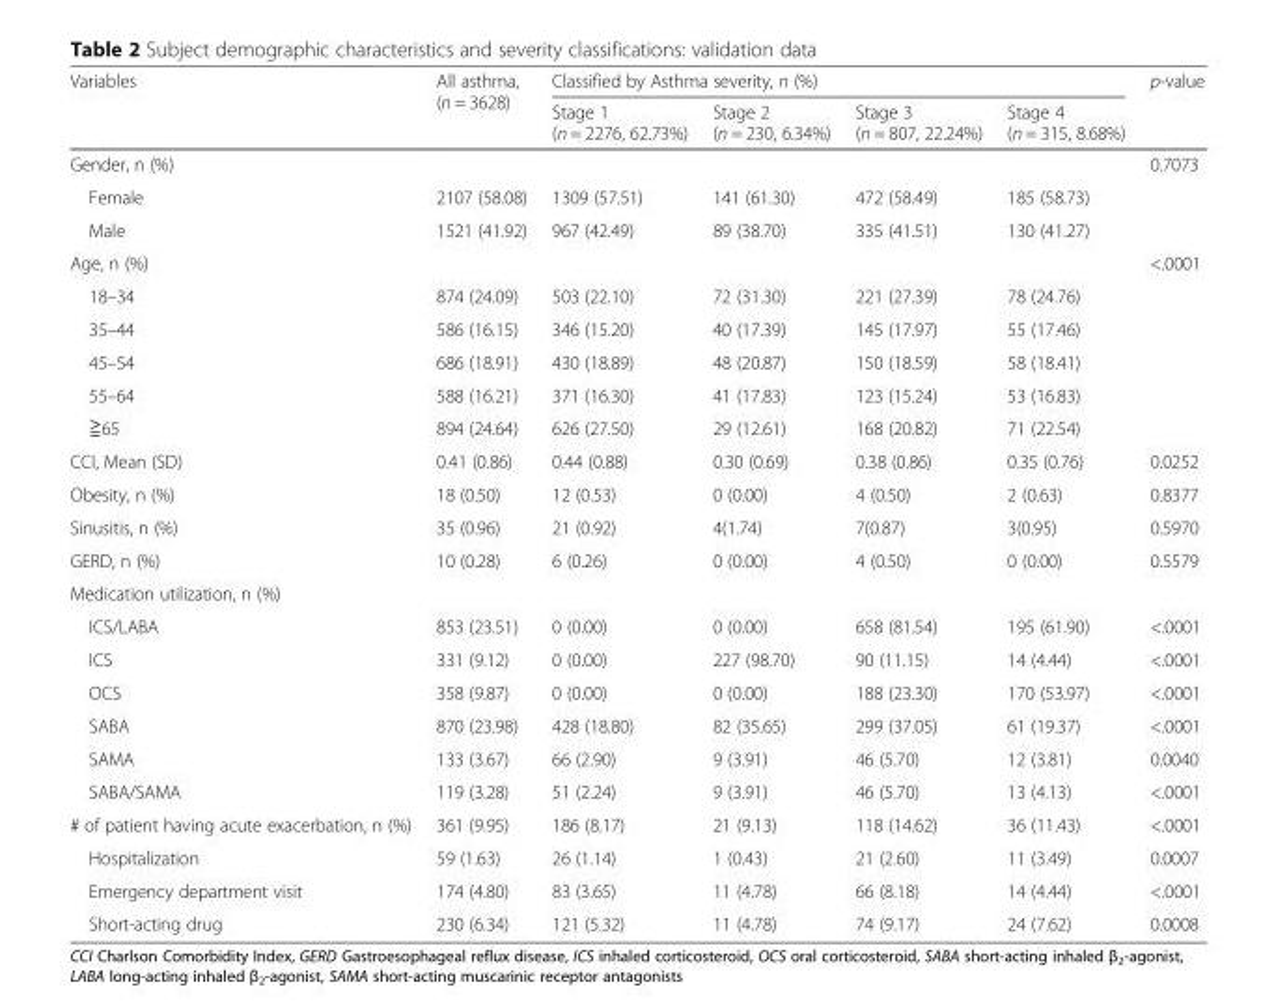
<table><thead><tr><td rowspan="2">Variables</td><td rowspan="2">All asthma, (n = 3628)</td><td colspan="4">Classified by Asthma severity, n (%)</td><td rowspan="2">p-value</td></tr><tr><td>Stage 1 (n = 2276, 62.73%)</td><td>Stage 2 (n = 230, 6.34%)</td><td>Stage 3 (n = 807, 22.24%)</td><td>Stage 4 (n = 315, 8.68%)</td></tr></thead><tbody><tr><td>Gender, n (%)</td><td></td><td></td><td></td><td></td><td></td><td>0.7073</td></tr><tr><td>Female</td><td>2107 (58.08)</td><td>1309 (57.51)</td><td>141 (61.30)</td><td>472 (58.49)</td><td>185 (58.73)</td><td></td></tr><tr><td>Male</td><td>1521 (41.92)</td><td>967 (42.49)</td><td>89 (38.70)</td><td>335 (41.51)</td><td>130 (41.27)</td><td></td></tr><tr><td>Age, n (%)</td><td></td><td></td><td></td><td></td><td></td><td>&lt;.0001</td></tr><tr><td>18–34</td><td>874 (24.09)</td><td>503 (22.10)</td><td>72 (31.30)</td><td>221 (27.39)</td><td>78 (24.76)</td><td></td></tr><tr><td>35–44</td><td>586 (16.15)</td><td>346 (15.20)</td><td>40 (17.39)</td><td>145 (17.97)</td><td>55 (17.46)</td><td></td></tr><tr><td>45–54</td><td>686 (18.91)</td><td>430 (18.89)</td><td>48 (20.87)</td><td>150 (18.59)</td><td>58 (18.41)</td><td></td></tr><tr><td>55–64</td><td>588 (16.21)</td><td>371 (16.30)</td><td>41 (17.83)</td><td>123 (15.24)</td><td>53 (16.83)</td><td></td></tr><tr><td>≧65</td><td>894 (24.64)</td><td>626 (27.50)</td><td>29 (12.61)</td><td>168 (20.82)</td><td>71 (22.54)</td><td></td></tr><tr><td>CCI, Mean (SD)</td><td>0.41 (0.86)</td><td>0.44 (0.88)</td><td>0.30 (0.69)</td><td>0.38 (0.86)</td><td>0.35 (0.76)</td><td>0.0252</td></tr><tr><td>Obesity, n (%)</td><td>18 (0.50)</td><td>12 (0.53)</td><td>0 (0.00)</td><td>4 (0.50)</td><td>2 (0.63)</td><td>0.8377</td></tr><tr><td>Sinusitis, n (%)</td><td>35 (0.96)</td><td>21 (0.92)</td><td>4(1.74)</td><td>7(0.87)</td><td>3(0.95)</td><td>0.5970</td></tr><tr><td>GERD, n (%)</td><td>10 (0.28)</td><td>6 (0.26)</td><td>0 (0.00)</td><td>4 (0.50)</td><td>0 (0.00)</td><td>0.5579</td></tr><tr><td colspan="7">Medication utilization, n (%)</td></tr><tr><td>ICS/LABA</td><td>853 (23.51)</td><td>0 (0.00)</td><td>0 (0.00)</td><td>658 (81.54)</td><td>195 (61.90)</td><td>&lt;.0001</td></tr><tr><td>ICS</td><td>331 (9.12)</td><td>0 (0.00)</td><td>227 (98.70)</td><td>90 (11.15)</td><td>14 (4.44)</td><td>&lt;.0001</td></tr><tr><td>OCS</td><td>358 (9.87)</td><td>0 (0.00)</td><td>0 (0.00)</td><td>188 (23.30)</td><td>170 (53.97)</td><td>&lt;.0001</td></tr><tr><td>SABA</td><td>870 (23.98)</td><td>428 (18.80)</td><td>82 (35.65)</td><td>299 (37.05)</td><td>61 (19.37)</td><td>&lt;.0001</td></tr><tr><td>SAMA</td><td>133 (3.67)</td><td>66 (2.90)</td><td>9 (3.91)</td><td>46 (5.70)</td><td>12 (3.81)</td><td>0.0040</td></tr><tr><td>SABA/SAMA</td><td>119 (3.28)</td><td>51 (2.24)</td><td>9 (3.91)</td><td>46 (5.70)</td><td>13 (4.13)</td><td>&lt;.0001</td></tr><tr><td># of patient having acute exacerbation, n (%)</td><td>361 (9.95)</td><td>186 (8.17)</td><td>21 (9.13)</td><td>118 (14.62)</td><td>36 (11.43)</td><td>&lt;.0001</td></tr><tr><td>Hospitalization</td><td>59 (1.63)</td><td>26 (1.14)</td><td>1 (0.43)</td><td>21 (2.60)</td><td>11 (3.49)</td><td>0.0007</td></tr><tr><td>Emergency department visit</td><td>174 (4.80)</td><td>83 (3.65)</td><td>11 (4.78)</td><td>66 (8.18)</td><td>14 (4.44)</td><td>&lt;.0001</td></tr><tr><td>Short-acting drug</td><td>230 (6.34)</td><td>121 (5.32)</td><td>11 (4.78)</td><td>74 (9.17)</td><td>24 (7.62)</td><td>0.0008</td></tr></tbody></table>